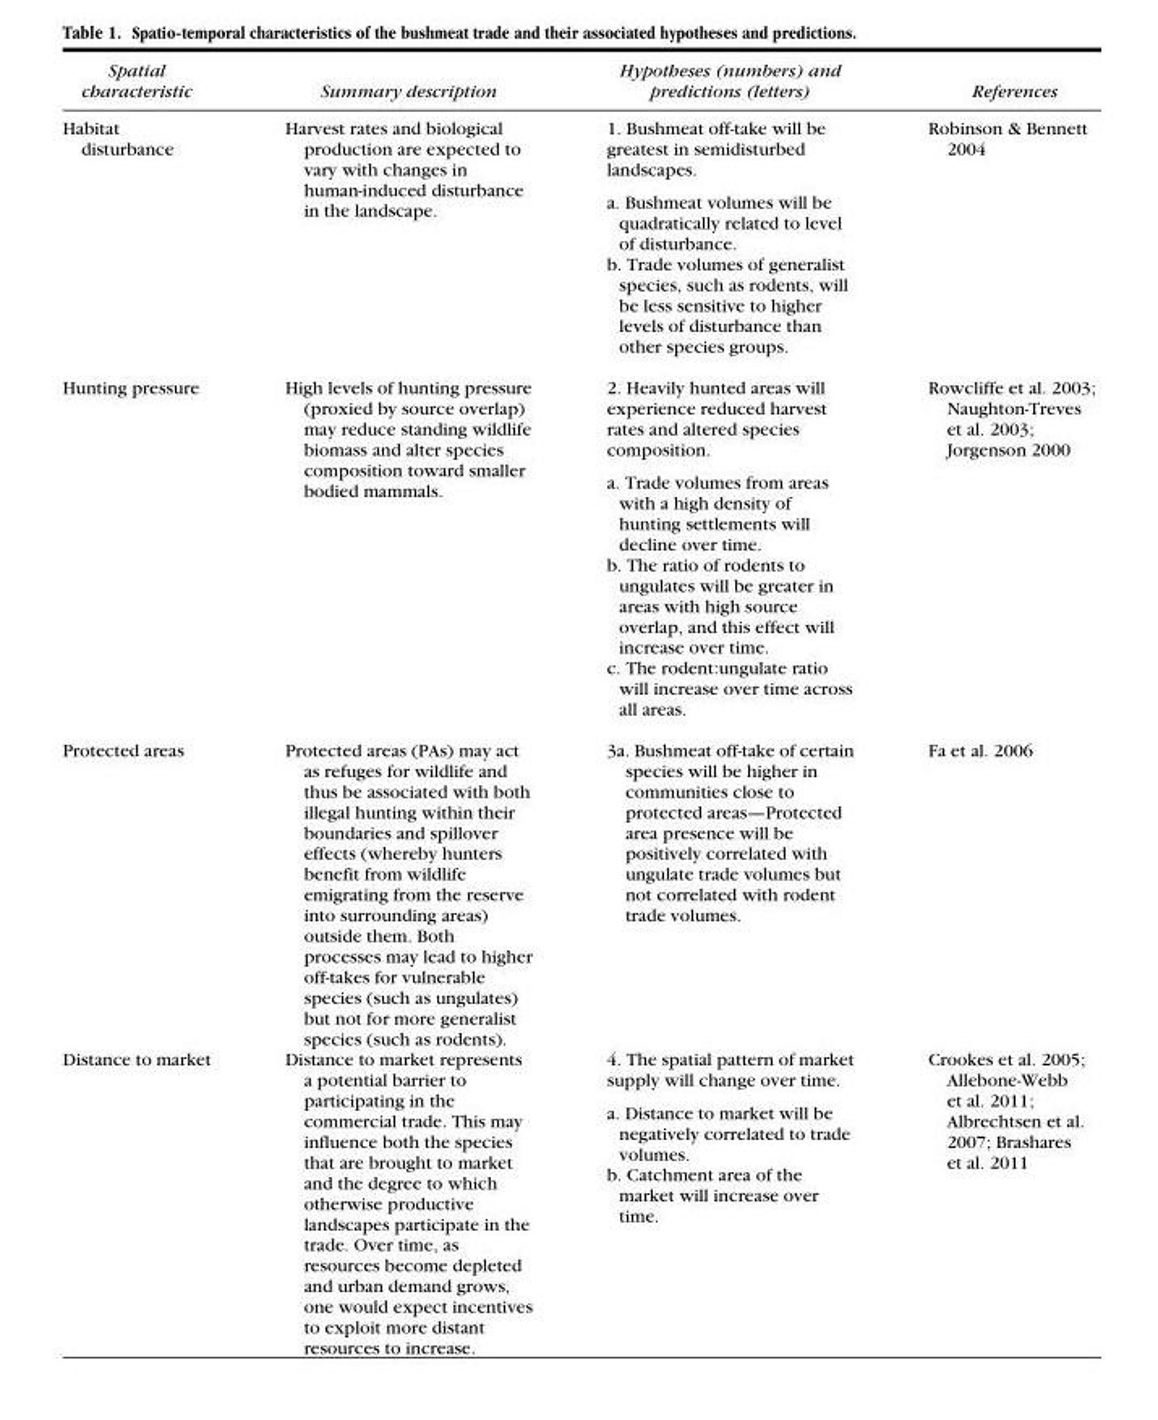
<table><thead><tr><td rowspan="2">Spatial characteristic</td><td rowspan="2">Summary description</td><td rowspan="2">Hypotheses (numbers) and predictions (letters)</td><td rowspan="2">References</td></tr><tr></tr></thead><tbody><tr><td>Habitat disturbance</td><td>Harvest rates and biological production are expected to vary with changes in human-induced disturbance in the landscape.</td><td>1. Bushmeat off-take will be greatest in semidisturbed landscapes. a. Bushmeat volumes will be quadratically related to level of disturbance. b. Trade volumes of generalist species, such as rodents, will be less sensitive to higher levels of disturbance than other species groups.</td><td>Robinson &amp; Bennett 2004</td></tr><tr><td>Hunting pressure</td><td>High levels of hunting pressure (proxied by source overlap) may reduce standing wildlife biomass and alter species composition toward smaller bodied mammals.</td><td>2. Heavily hunted areas will experience reduced harvest rates and altered species composition. a. Trade volumes from areas with a high density of hunting settlements will decline over time. b. The ratio of rodents to ungulates will be greater in areas with high source overlap, and this effect will increase over time. c. The rodent:ungulate ratio will increase over time across all areas.</td><td>Rowcliffe et al. 2003; Naughton-Treves et al. 2003; Jorgenson 2000</td></tr><tr><td>Protected areas</td><td>Protected areas (PAs) may act as refuges for wildlife and thus be associated with both illegal hunting within their boundaries and spillover effects (whereby hunters benefit from wildlife emigrating from the reserve into surrounding areas) outside them. Both processes may lead to higher off-takes for vulnerable species (such as ungulates) but not for more generalist species (such as rodents).</td><td>3a. Bushmeat off-take of certain species will be higher in communities close to protected areas—Protected area presence will be positively correlated with ungulate trade volumes but not correlated with rodent trade volumes.</td><td>Fa et al. 2006</td></tr><tr><td>Distance to market</td><td>Distance to market represents a potential barrier to participating in the commercial trade. This may influence both the species that are brought to market and the degree to which otherwise productive landscapes participate in the trade. Over time, as resources become depleted and urban demand grows, one would expect incentives to exploit more distant resources to increase.</td><td>4. The spatial pattern of market supply will change over time. a. Distance to market will be negatively correlated to trade volumes. b. Catchment area of the market will increase over time.</td><td>Crookes et al. 2005; Allebone-Webb et al. 2011; Albrechtsen et al. 2007; Brashares et al. 2011</td></tr></tbody></table>